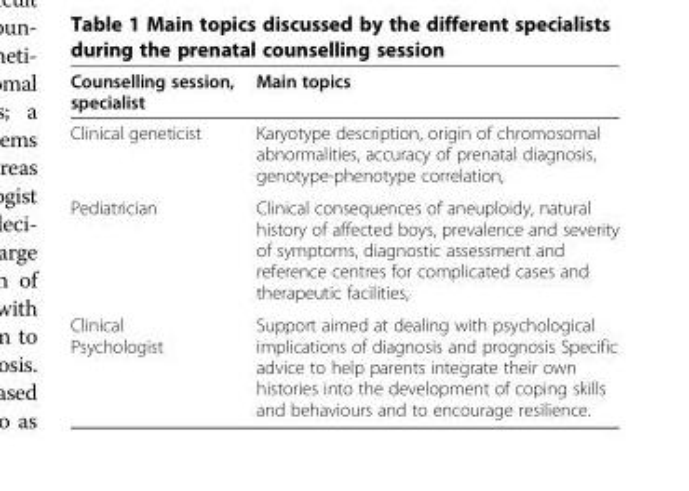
<table><thead><tr><td>Counselling session, specialist</td><td>Main topics</td></tr></thead><tbody><tr><td>Clinical geneticist</td><td>Karyotype description, origin of chromosomal abnormalities, accuracy of prenatal diagnosis, genotype-phenotype correlation,</td></tr><tr><td>Pediatrician</td><td>Clinical consequences of aneuploidy, natural history of affected boys, prevalence and severity of symptoms, diagnostic assessment and reference centres for complicated cases and therapeutic facilities,</td></tr><tr><td>Clinical Psychologist</td><td>Support aimed at dealing with psychological implications of diagnosis and prognosis Specific advice to help parents integrate their own histories into the development of coping skills and behaviours and to encourage resilience.</td></tr></tbody></table>